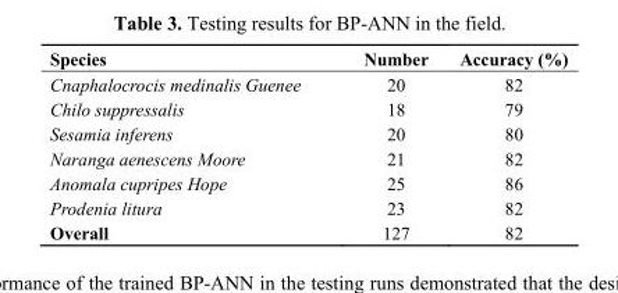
<table><thead><tr><td>Species</td><td>Number</td><td>Accuracy (%)</td></tr></thead><tbody><tr><td>Cnaphalocrocis medinalis Guenee</td><td>20</td><td>82</td></tr><tr><td>Chilo suppressalis</td><td>18</td><td>79</td></tr><tr><td>Sesamia inferens</td><td>20</td><td>80</td></tr><tr><td>Naranga aenescens Moore</td><td>21</td><td>82</td></tr><tr><td>Anomala cupripes Hope</td><td>25</td><td>86</td></tr><tr><td>Prodenia litura</td><td>23</td><td>82</td></tr><tr><td>Overall</td><td>127</td><td>82</td></tr></tbody></table>